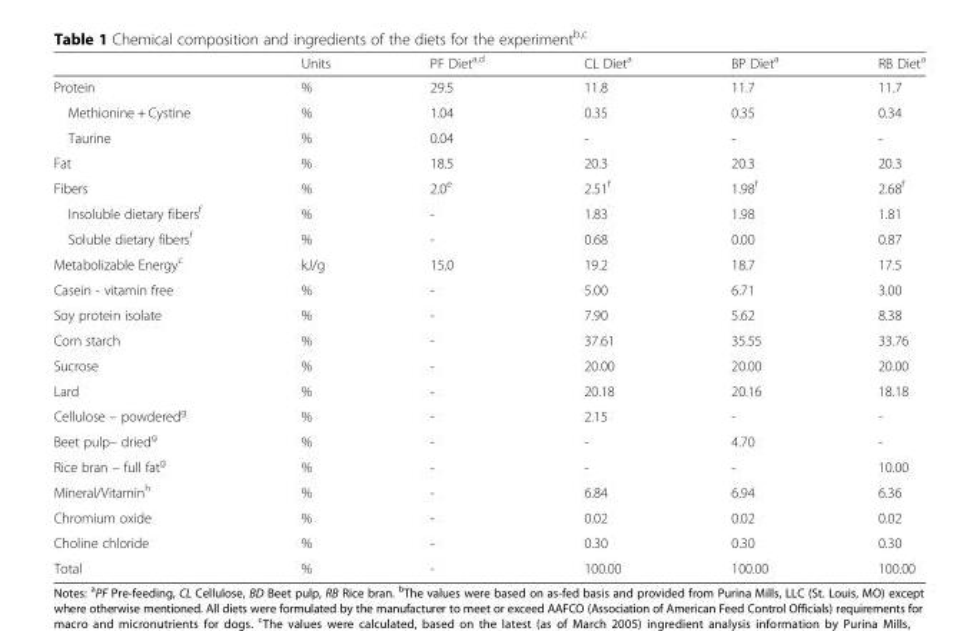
<table><thead><tr><td></td><td>Units</td><td>PF Diet<sup>a,d</sup></td><td>CL Diet<sup>a</sup></td><td>BP Diet<sup>a</sup></td><td>RB Diet<sup>a</sup></td></tr></thead><tbody><tr><td>Protein</td><td>%</td><td>29.5</td><td>11.8</td><td>11.7</td><td>11.7</td></tr><tr><td>Methionine + Cystine</td><td>%</td><td>1.04</td><td>0.35</td><td>0.35</td><td>0.34</td></tr><tr><td>Taurine</td><td>%</td><td>0.04</td><td>-</td><td>-</td><td>-</td></tr><tr><td>Fat</td><td>%</td><td>18.5</td><td>20.3</td><td>20.3</td><td>20.3</td></tr><tr><td>Fibers</td><td>%</td><td>2.0<sup>e</sup></td><td>2.51<sup>f</sup></td><td>1.98<sup>f</sup></td><td>2.68<sup>f</sup></td></tr><tr><td>Insoluble dietary fibers<sup>f</sup></td><td>%</td><td>-</td><td>1.83</td><td>1.98</td><td>1.81</td></tr><tr><td>Soluble dietary fibers<sup>f</sup></td><td>%</td><td>-</td><td>0.68</td><td>0.00</td><td>0.87</td></tr><tr><td>Metabolizable Energy<sup>c</sup></td><td>kJ/g</td><td>15.0</td><td>19.2</td><td>18.7</td><td>17.5</td></tr><tr><td>Casein - vitamin free</td><td>%</td><td>-</td><td>5.00</td><td>6.71</td><td>3.00</td></tr><tr><td>Soy protein isolate</td><td>%</td><td>-</td><td>7.90</td><td>5.62</td><td>8.38</td></tr><tr><td>Corn starch</td><td>%</td><td>-</td><td>37.61</td><td>35.55</td><td>33.76</td></tr><tr><td>Sucrose</td><td>%</td><td>-</td><td>20.00</td><td>20.00</td><td>20.00</td></tr><tr><td>Lard</td><td>%</td><td>-</td><td>20.18</td><td>20.16</td><td>18.18</td></tr><tr><td>Cellulose – powdered<sup>g</sup></td><td>%</td><td>-</td><td>2.15</td><td>-</td><td>-</td></tr><tr><td>Beet pulp– dried<sup>g</sup></td><td>%</td><td>-</td><td>-</td><td>4.70</td><td>-</td></tr><tr><td>Rice bran – full fat<sup>g</sup></td><td>%</td><td>-</td><td>-</td><td>-</td><td>10.00</td></tr><tr><td>Mineral/Vitamin<sup>h</sup></td><td>%</td><td>-</td><td>6.84</td><td>6.94</td><td>6.36</td></tr><tr><td>Chromium oxide</td><td>%</td><td>-</td><td>0.02</td><td>0.02</td><td>0.02</td></tr><tr><td>Choline chloride</td><td>%</td><td>-</td><td>0.30</td><td>0.30</td><td>0.30</td></tr><tr><td>Total</td><td>%</td><td>-</td><td>100.00</td><td>100.00</td><td>100.00</td></tr></tbody></table>